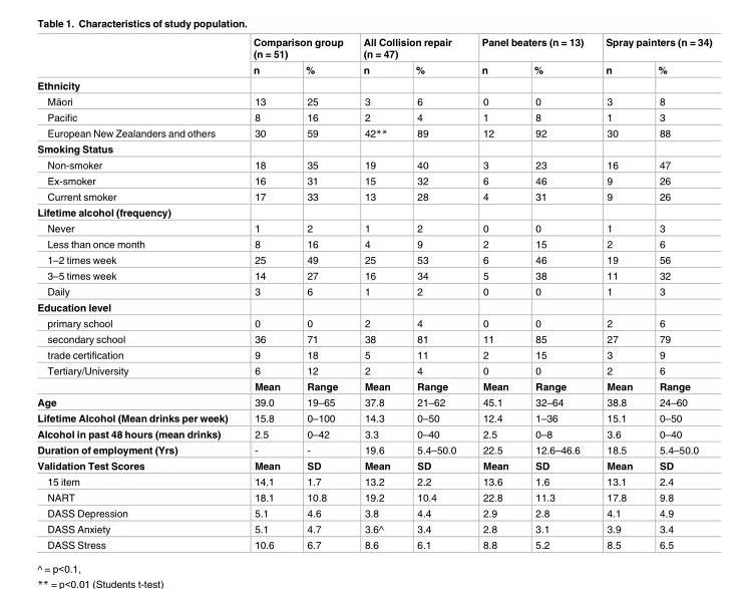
<table><thead><tr><td rowspan="2"></td><td colspan="2">Comparison group (n = 51)</td><td colspan="2">All Collision repair (n = 47)</td><td colspan="2">Panel beaters (n = 13)</td><td colspan="2">Spray painters (n = 34)</td></tr><tr><td>n</td><td>%</td><td>n</td><td>%</td><td>n</td><td>%</td><td>n</td><td>%</td></tr></thead><tbody><tr><td colspan="9">Ethnicity</td></tr><tr><td>Māori</td><td>13</td><td>25</td><td>3</td><td>6</td><td>0</td><td>0</td><td>3</td><td>8</td></tr><tr><td>Pacific</td><td>8</td><td>16</td><td>2</td><td>4</td><td>1</td><td>8</td><td>1</td><td>3</td></tr><tr><td>European New Zealanders and others</td><td>30</td><td>59</td><td>42**</td><td>89</td><td>12</td><td>92</td><td>30</td><td>88</td></tr><tr><td colspan="9">Smoking Status</td></tr><tr><td>Non-smoker</td><td>18</td><td>35</td><td>19</td><td>40</td><td>3</td><td>23</td><td>16</td><td>47</td></tr><tr><td>Ex-smoker</td><td>16</td><td>31</td><td>15</td><td>32</td><td>6</td><td>46</td><td>9</td><td>26</td></tr><tr><td>Current smoker</td><td>17</td><td>33</td><td>13</td><td>28</td><td>4</td><td>31</td><td>9</td><td>26</td></tr><tr><td colspan="9">Lifetime alcohol (frequency)</td></tr><tr><td>Never</td><td>1</td><td>2</td><td>1</td><td>2</td><td>0</td><td>0</td><td>1</td><td>3</td></tr><tr><td>Less than once month</td><td>8</td><td>16</td><td>4</td><td>9</td><td>2</td><td>15</td><td>2</td><td>6</td></tr><tr><td>1–2 times week</td><td>25</td><td>49</td><td>25</td><td>53</td><td>6</td><td>46</td><td>19</td><td>56</td></tr><tr><td>3–5 times week</td><td>14</td><td>27</td><td>16</td><td>34</td><td>5</td><td>38</td><td>11</td><td>32</td></tr><tr><td>Daily</td><td>3</td><td>6</td><td>1</td><td>2</td><td>0</td><td>0</td><td>1</td><td>3</td></tr><tr><td colspan="9">Education level</td></tr><tr><td>primary school</td><td>0</td><td>0</td><td>2</td><td>4</td><td>0</td><td>0</td><td>2</td><td>6</td></tr><tr><td>secondary school</td><td>36</td><td>71</td><td>38</td><td>81</td><td>11</td><td>85</td><td>27</td><td>79</td></tr><tr><td>trade certification</td><td>9</td><td>18</td><td>5</td><td>11</td><td>2</td><td>15</td><td>3</td><td>9</td></tr><tr><td rowspan="2">Tertiary/University</td><td>6</td><td>12</td><td>2</td><td>4</td><td>0</td><td>0</td><td>2</td><td>6</td></tr><tr><td>Mean</td><td>Range</td><td>Mean</td><td>Range</td><td>Mean</td><td>Range</td><td>Mean</td><td>Range</td></tr><tr><td>Age</td><td>39.0</td><td>19–65</td><td>37.8</td><td>21–62</td><td>45.1</td><td>32–64</td><td>38.8</td><td>24–60</td></tr><tr><td>Lifetime Alcohol (Mean drinks per week)</td><td>15.8</td><td>0–100</td><td>14.3</td><td>0–50</td><td>12.4</td><td>1–36</td><td>15.1</td><td>0–50</td></tr><tr><td>Alcohol in past 48 hours (mean drinks)</td><td>2.5</td><td>0–42</td><td>3.3</td><td>0–40</td><td>2.5</td><td>0–8</td><td>3.6</td><td>0–40</td></tr><tr><td>Duration of employment (Yrs)</td><td>-</td><td>-</td><td>19.6</td><td>5.4–50.0</td><td>22.5</td><td>12.6–46.6</td><td>18.5</td><td>5.4–50.0</td></tr><tr><td>Validation Test Scores</td><td>Mean</td><td>SD</td><td>Mean</td><td>SD</td><td>Mean</td><td>SD</td><td>Mean</td><td>SD</td></tr><tr><td>15 item</td><td>14.1</td><td>1.7</td><td>13.2</td><td>2.2</td><td>13.6</td><td>1.6</td><td>13.1</td><td>2.4</td></tr><tr><td>NART</td><td>18.1</td><td>10.8</td><td>19.2</td><td>10.4</td><td>22.8</td><td>11.3</td><td>17.8</td><td>9.8</td></tr><tr><td>DASS Depression</td><td>5.1</td><td>4.6</td><td>3.8</td><td>4.4</td><td>2.9</td><td>2.8</td><td>4.1</td><td>4.9</td></tr><tr><td>DASS Anxiety</td><td>5.1</td><td>4.7</td><td>3.6^</td><td>3.4</td><td>2.8</td><td>3.1</td><td>3.9</td><td>3.4</td></tr><tr><td>DASS Stress</td><td>10.6</td><td>6.7</td><td>8.6</td><td>6.1</td><td>8.8</td><td>5.2</td><td>8.5</td><td>6.5</td></tr></tbody></table>